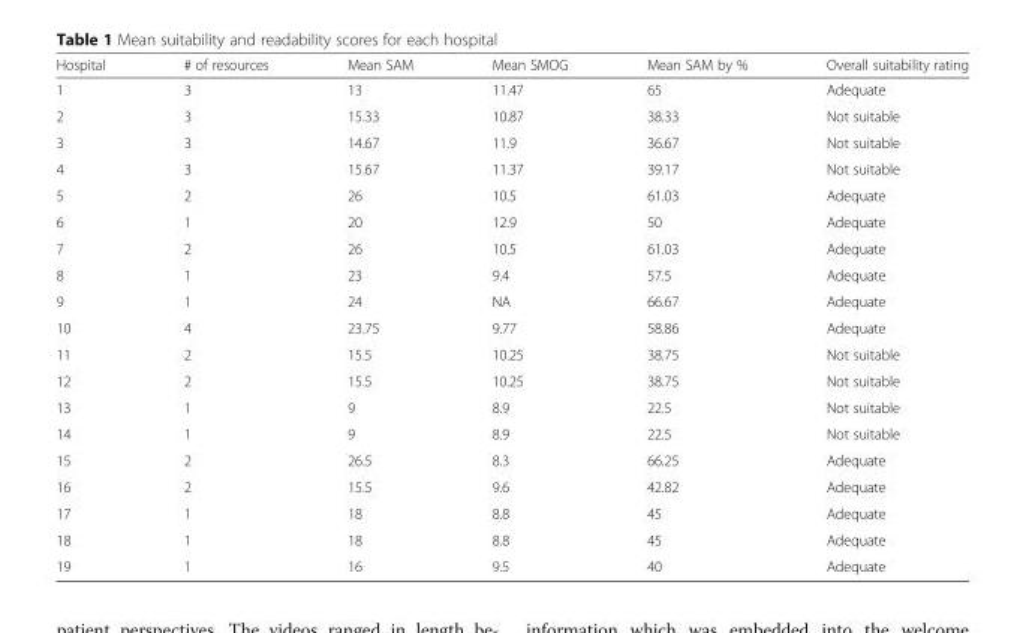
<table><thead><tr><td>Hospital</td><td># of resources</td><td>Mean SAM</td><td>Mean SMOG</td><td>Mean SAM by %</td><td>Overall suitability rating</td></tr></thead><tbody><tr><td>1</td><td>3</td><td>13</td><td>11.47</td><td>65</td><td>Adequate</td></tr><tr><td>2</td><td>3</td><td>15.33</td><td>10.87</td><td>38.33</td><td>Not suitable</td></tr><tr><td>3</td><td>3</td><td>14.67</td><td>11.9</td><td>36.67</td><td>Not suitable</td></tr><tr><td>4</td><td>3</td><td>15.67</td><td>11.37</td><td>39.17</td><td>Not suitable</td></tr><tr><td>5</td><td>2</td><td>26</td><td>10.5</td><td>61.03</td><td>Adequate</td></tr><tr><td>6</td><td>1</td><td>20</td><td>12.9</td><td>50</td><td>Adequate</td></tr><tr><td>7</td><td>2</td><td>26</td><td>10.5</td><td>61.03</td><td>Adequate</td></tr><tr><td>8</td><td>1</td><td>23</td><td>9.4</td><td>57.5</td><td>Adequate</td></tr><tr><td>9</td><td>1</td><td>24</td><td>NA</td><td>66.67</td><td>Adequate</td></tr><tr><td>10</td><td>4</td><td>23.75</td><td>9.77</td><td>58.86</td><td>Adequate</td></tr><tr><td>11</td><td>2</td><td>15.5</td><td>10.25</td><td>38.75</td><td>Not suitable</td></tr><tr><td>12</td><td>2</td><td>15.5</td><td>10.25</td><td>38.75</td><td>Not suitable</td></tr><tr><td>13</td><td>1</td><td>9</td><td>8.9</td><td>22.5</td><td>Not suitable</td></tr><tr><td>14</td><td>1</td><td>9</td><td>8.9</td><td>22.5</td><td>Not suitable</td></tr><tr><td>15</td><td>2</td><td>26.5</td><td>8.3</td><td>66.25</td><td>Adequate</td></tr><tr><td>16</td><td>2</td><td>15.5</td><td>9.6</td><td>42.82</td><td>Adequate</td></tr><tr><td>17</td><td>1</td><td>18</td><td>8.8</td><td>45</td><td>Adequate</td></tr><tr><td>18</td><td>1</td><td>18</td><td>8.8</td><td>45</td><td>Adequate</td></tr><tr><td>19</td><td>1</td><td>16</td><td>9.5</td><td>40</td><td>Adequate</td></tr></tbody></table>